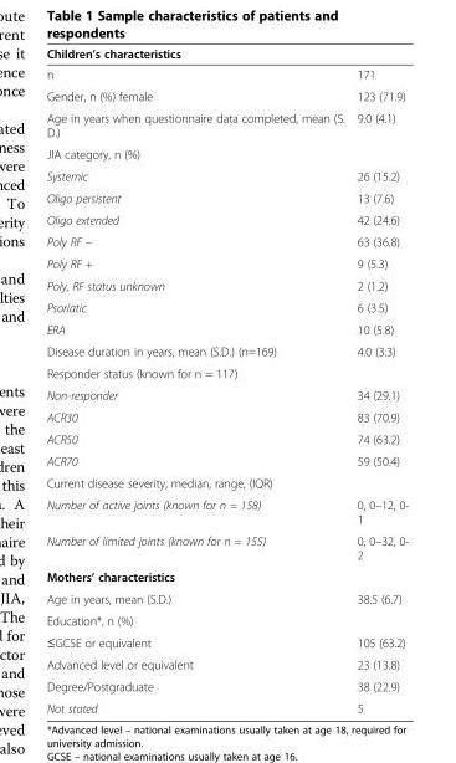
<table><thead><tr><td colspan="2">Children’s characteristics</td></tr><tr><td>n</td><td>171</td></tr></thead><tbody><tr><td>Gender, n (%) female</td><td>123 (71.9)</td></tr><tr><td>Age in years when questionnaire data completed, mean (S. D.)</td><td>9.0 (4.1)</td></tr><tr><td colspan="2">JIA category, n (%)</td></tr><tr><td>Systemic</td><td>26 (15.2)</td></tr><tr><td>Oligo persistent</td><td>13 (7.6)</td></tr><tr><td>Oligo extended</td><td>42 (24.6)</td></tr><tr><td>Poly RF –</td><td>63 (36.8)</td></tr><tr><td>Poly RF +</td><td>9 (5.3)</td></tr><tr><td>Poly, RF status unknown</td><td>2 (1.2)</td></tr><tr><td>Psoriatic</td><td>6 (3.5)</td></tr><tr><td>ERA</td><td>10 (5.8)</td></tr><tr><td>Disease duration in years, mean (S.D.) (n=169)</td><td>4.0 (3.3)</td></tr><tr><td colspan="2">Responder status (known for n = 117)</td></tr><tr><td>Non-responder</td><td>34 (29.1)</td></tr><tr><td>ACR30</td><td>83 (70.9)</td></tr><tr><td>ACR50</td><td>74 (63.2)</td></tr><tr><td>ACR70</td><td>59 (50.4)</td></tr><tr><td colspan="2">Current disease severity, median, range, (IQR)</td></tr><tr><td>Number of active joints (known for n = 158)</td><td>0, 0–12, 0- 1</td></tr><tr><td>Number of limited joints (known for n = 155)</td><td>0, 0–32, 0- 2</td></tr><tr><td colspan="2">Mothers’ characteristics</td></tr><tr><td>Age in years, mean (S.D.)</td><td>38.5 (6.7)</td></tr><tr><td colspan="2">Education*, n (%)</td></tr><tr><td>≤GCSE or equivalent</td><td>105 (63.2)</td></tr><tr><td>Advanced level or equivalent</td><td>23 (13.8)</td></tr><tr><td>Degree/Postgraduate</td><td>38 (22.9)</td></tr><tr><td>Not stated</td><td>5</td></tr></tbody></table>